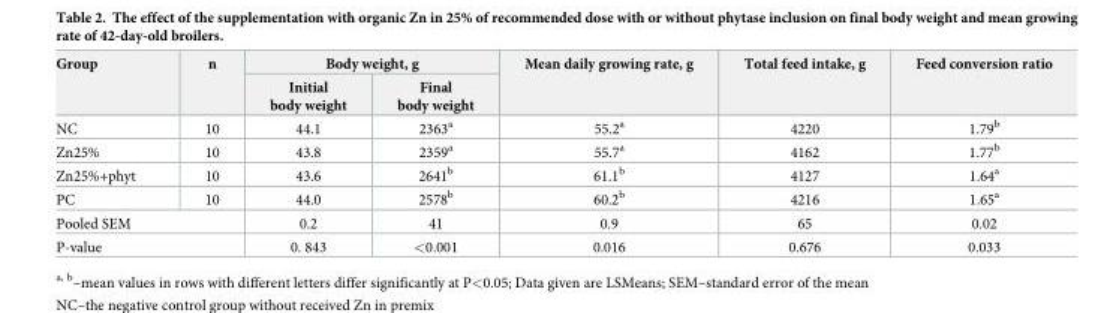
<table><thead><tr><td rowspan="2">Group</td><td rowspan="2">n</td><td colspan="2">Body weight, g</td><td rowspan="2">Mean daily growing rate, g</td><td rowspan="2">Total feed intake, g</td><td rowspan="2">Feed conversion ratio</td></tr><tr><td>Initial body weight</td><td>Final body weight</td></tr></thead><tbody><tr><td>NC</td><td>10</td><td>44.1</td><td>2363<sup>a</sup></td><td>55.2<sup>a</sup></td><td>4220</td><td>1.79<sup>b</sup></td></tr><tr><td>Zn25%</td><td>10</td><td>43.8</td><td>2359<sup>a</sup></td><td>55.7<sup>a</sup></td><td>4162</td><td>1.77<sup>b</sup></td></tr><tr><td>Zn25%+phyt</td><td>10</td><td>43.6</td><td>2641<sup>b</sup></td><td>61.1<sup>b</sup></td><td>4127</td><td>1.64<sup>a</sup></td></tr><tr><td>PC</td><td>10</td><td>44.0</td><td>2578<sup>b</sup></td><td>60.2<sup>b</sup></td><td>4216</td><td>1.65<sup>a</sup></td></tr><tr><td colspan="2">Pooled SEM</td><td>0.2</td><td>41</td><td>0.9</td><td>65</td><td>0.02</td></tr><tr><td colspan="2">P-value</td><td>0. 843</td><td>&lt;0.001</td><td>0.016</td><td>0.676</td><td>0.033</td></tr></tbody></table>